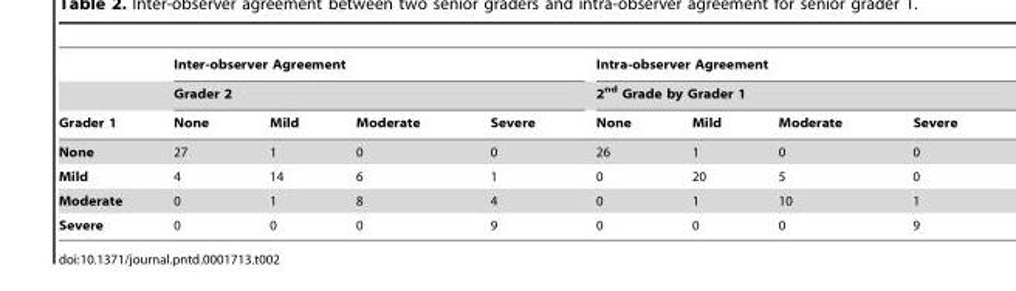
<table><thead><tr><td rowspan="3">Grader 1</td><td rowspan="2" colspan="4">Inter-observer Agreement Grader 2</td><td rowspan="2" colspan="4">Intra-observer Agreement 2<sup>nd</sup> Grade by Grader 1</td></tr><tr></tr><tr><td>None</td><td>Mild</td><td>Moderate</td><td>Severe</td><td>None</td><td>Mild</td><td>Moderate</td><td>Severe</td></tr></thead><tbody><tr><td>None</td><td>27</td><td>1</td><td>0</td><td>0</td><td>26</td><td>1</td><td>0</td><td>0</td></tr><tr><td>Mild</td><td>4</td><td>14</td><td>6</td><td>1</td><td>0</td><td>20</td><td>5</td><td>0</td></tr><tr><td>Moderate</td><td>0</td><td>1</td><td>8</td><td>4</td><td>0</td><td>1</td><td>10</td><td>1</td></tr><tr><td>Severe</td><td>0</td><td>0</td><td>0</td><td>9</td><td>0</td><td>0</td><td>0</td><td>9</td></tr></tbody></table>